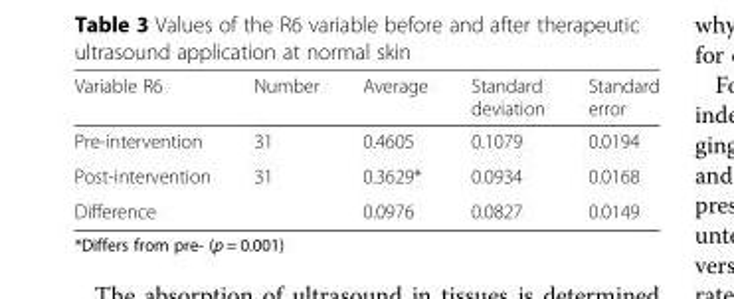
<table><thead><tr><td>Variable R6</td><td>Number</td><td>Average</td><td>Standard deviation</td><td>Standard error</td></tr></thead><tbody><tr><td>Pre-intervention</td><td>31</td><td>0.4605</td><td>0.1079</td><td>0.0194</td></tr><tr><td>Post-intervention</td><td>31</td><td>0.3629*</td><td>0.0934</td><td>0.0168</td></tr><tr><td>Difference</td><td></td><td>0.0976</td><td>0.0827</td><td>0.0149</td></tr></tbody></table>